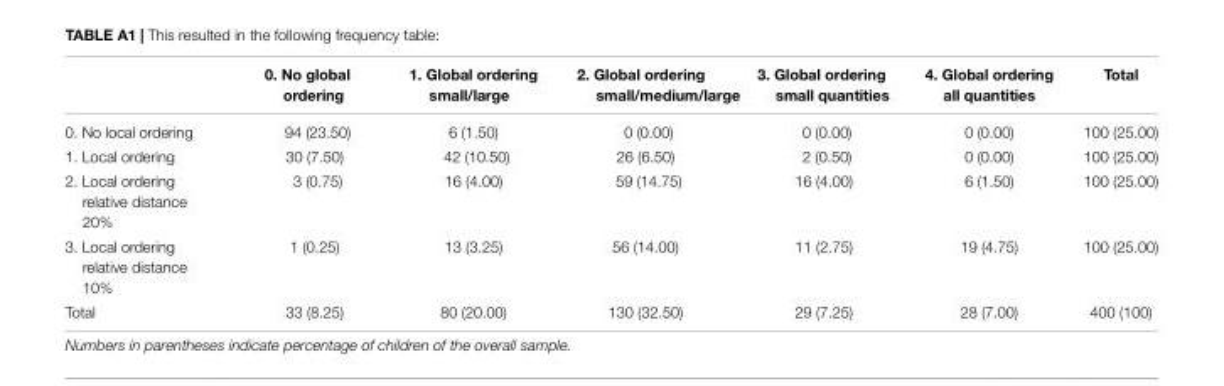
<table><thead><tr><td></td><td>0. No global ordering</td><td>1. Global ordering small/large</td><td>2. Global ordering small/medium/large</td><td>3. Global ordering small quantities</td><td>4. Global ordering all quantities</td><td>Total</td></tr></thead><tbody><tr><td>0. No local ordering</td><td>94 (23.50)</td><td>6 (1.50)</td><td>0 (0.00)</td><td>0 (0.00)</td><td>0 (0.00)</td><td>100 (25.00)</td></tr><tr><td>1. Local ordering</td><td>30 (7.50)</td><td>42 (10.50)</td><td>26 (6.50)</td><td>2 (0.50)</td><td>0 (0.00)</td><td>100 (25.00)</td></tr><tr><td>2. Local ordering relative distance 20%</td><td>3 (0.75)</td><td>16 (4.00)</td><td>59 (14.75)</td><td>16 (4.00)</td><td>6 (1.50)</td><td>100 (25.00)</td></tr><tr><td>3. Local ordering relative distance 10%</td><td>1 (0.25)</td><td>13 (3.25)</td><td>56 (14.00)</td><td>11 (2.75)</td><td>19 (4.75)</td><td>100 (25.00)</td></tr><tr><td>Total</td><td>33 (8.25)</td><td>80 (20.00)</td><td>130 (32.50)</td><td>29 (7.25)</td><td>28 (7.00)</td><td>400 (100)</td></tr></tbody></table>